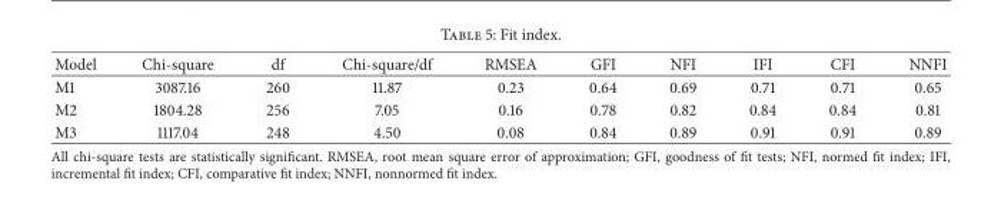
<table><thead><tr><td>Model</td><td>Chi-square</td><td>df</td><td>Chi-square/df</td><td>RMSEA</td><td>GFI</td><td>NFI</td><td>IFI</td><td>CFI</td><td>NNFI</td></tr></thead><tbody><tr><td>M1</td><td>3087.16</td><td>260</td><td>11.87</td><td>0.23</td><td>0.64</td><td>0.69</td><td>0.71</td><td>0.71</td><td>0.65</td></tr><tr><td>M2</td><td>1804.28</td><td>256</td><td>7.05</td><td>0.16</td><td>0.78</td><td>0.82</td><td>0.84</td><td>0.84</td><td>0.81</td></tr><tr><td>M3</td><td>1117.04</td><td>248</td><td>4.50</td><td>0.08</td><td>0.84</td><td>0.89</td><td>0.91</td><td>0.91</td><td>0.89</td></tr></tbody></table>